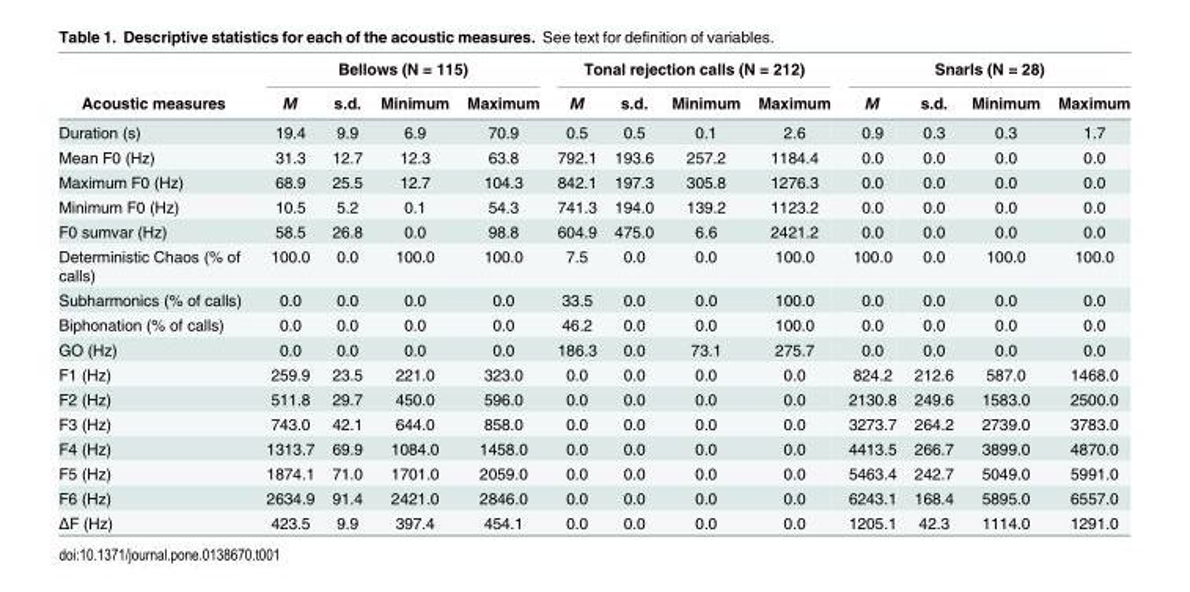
<table><thead><tr><td rowspan="2">Acoustic measures</td><td colspan="4">Bellows (N = 115)</td><td colspan="4">Tonal rejection calls (N = 212)</td><td colspan="4">Snarls (N = 28)</td></tr><tr><td>M</td><td>s.d.</td><td>Minimum</td><td>Maximum</td><td>M</td><td>s.d.</td><td>Minimum</td><td>Maximum</td><td>M</td><td>s.d.</td><td>Minimum</td><td>Maximum</td></tr></thead><tbody><tr><td>Duration (s)</td><td>19.4</td><td>9.9</td><td>6.9</td><td>70.9</td><td>0.5</td><td>0.5</td><td>0.1</td><td>2.6</td><td>0.9</td><td>0.3</td><td>0.3</td><td>1.7</td></tr><tr><td>Mean F0 (Hz)</td><td>31.3</td><td>12.7</td><td>12.3</td><td>63.8</td><td>792.1</td><td>193.6</td><td>257.2</td><td>1184.4</td><td>0.0</td><td>0.0</td><td>0.0</td><td>0.0</td></tr><tr><td>Maximum F0 (Hz)</td><td>68.9</td><td>25.5</td><td>12.7</td><td>104.3</td><td>842.1</td><td>197.3</td><td>305.8</td><td>1276.3</td><td>0.0</td><td>0.0</td><td>0.0</td><td>0.0</td></tr><tr><td>Minimum F0 (Hz)</td><td>10.5</td><td>5.2</td><td>0.1</td><td>54.3</td><td>741.3</td><td>194.0</td><td>139.2</td><td>1123.2</td><td>0.0</td><td>0.0</td><td>0.0</td><td>0.0</td></tr><tr><td>F0 sumvar (Hz)</td><td>58.5</td><td>26.8</td><td>0.0</td><td>98.8</td><td>604.9</td><td>475.0</td><td>6.6</td><td>2421.2</td><td>0.0</td><td>0.0</td><td>0.0</td><td>0.0</td></tr><tr><td>Deterministic Chaos (% of calls)</td><td>100.0</td><td>0.0</td><td>100.0</td><td>100.0</td><td>7.5</td><td>0.0</td><td>0.0</td><td>100.0</td><td>100.0</td><td>0.0</td><td>100.0</td><td>100.0</td></tr><tr><td>Subharmonics (% of calls)</td><td>0.0</td><td>0.0</td><td>0.0</td><td>0.0</td><td>33.5</td><td>0.0</td><td>0.0</td><td>100.0</td><td>0.0</td><td>0.0</td><td>0.0</td><td>0.0</td></tr><tr><td>Biphonation (% of calls)</td><td>0.0</td><td>0.0</td><td>0.0</td><td>0.0</td><td>46.2</td><td>0.0</td><td>0.0</td><td>100.0</td><td>0.0</td><td>0.0</td><td>0.0</td><td>0.0</td></tr><tr><td>GO (Hz)</td><td>0.0</td><td>0.0</td><td>0.0</td><td>0.0</td><td>186.3</td><td>0.0</td><td>73.1</td><td>275.7</td><td>0.0</td><td>0.0</td><td>0.0</td><td>0.0</td></tr><tr><td>F1 (Hz)</td><td>259.9</td><td>23.5</td><td>221.0</td><td>323.0</td><td>0.0</td><td>0.0</td><td>0.0</td><td>0.0</td><td>824.2</td><td>212.6</td><td>587.0</td><td>1468.0</td></tr><tr><td>F2 (Hz)</td><td>511.8</td><td>29.7</td><td>450.0</td><td>596.0</td><td>0.0</td><td>0.0</td><td>0.0</td><td>0.0</td><td>2130.8</td><td>249.6</td><td>1583.0</td><td>2500.0</td></tr><tr><td>F3 (Hz)</td><td>743.0</td><td>42.1</td><td>644.0</td><td>858.0</td><td>0.0</td><td>0.0</td><td>0.0</td><td>0.0</td><td>3273.7</td><td>264.2</td><td>2739.0</td><td>3783.0</td></tr><tr><td>F4 (Hz)</td><td>1313.7</td><td>69.9</td><td>1084.0</td><td>1458.0</td><td>0.0</td><td>0.0</td><td>0.0</td><td>0.0</td><td>4413.5</td><td>266.7</td><td>3899.0</td><td>4870.0</td></tr><tr><td>F5 (Hz)</td><td>1874.1</td><td>71.0</td><td>1701.0</td><td>2059.0</td><td>0.0</td><td>0.0</td><td>0.0</td><td>0.0</td><td>5463.4</td><td>242.7</td><td>5049.0</td><td>5991.0</td></tr><tr><td>F6 (Hz)</td><td>2634.9</td><td>91.4</td><td>2421.0</td><td>2846.0</td><td>0.0</td><td>0.0</td><td>0.0</td><td>0.0</td><td>6243.1</td><td>168.4</td><td>5895.0</td><td>6557.0</td></tr><tr><td>ΔF (Hz)</td><td>423.5</td><td>9.9</td><td>397.4</td><td>454.1</td><td>0.0</td><td>0.0</td><td>0.0</td><td>0.0</td><td>1205.1</td><td>42.3</td><td>1114.0</td><td>1291.0</td></tr></tbody></table>